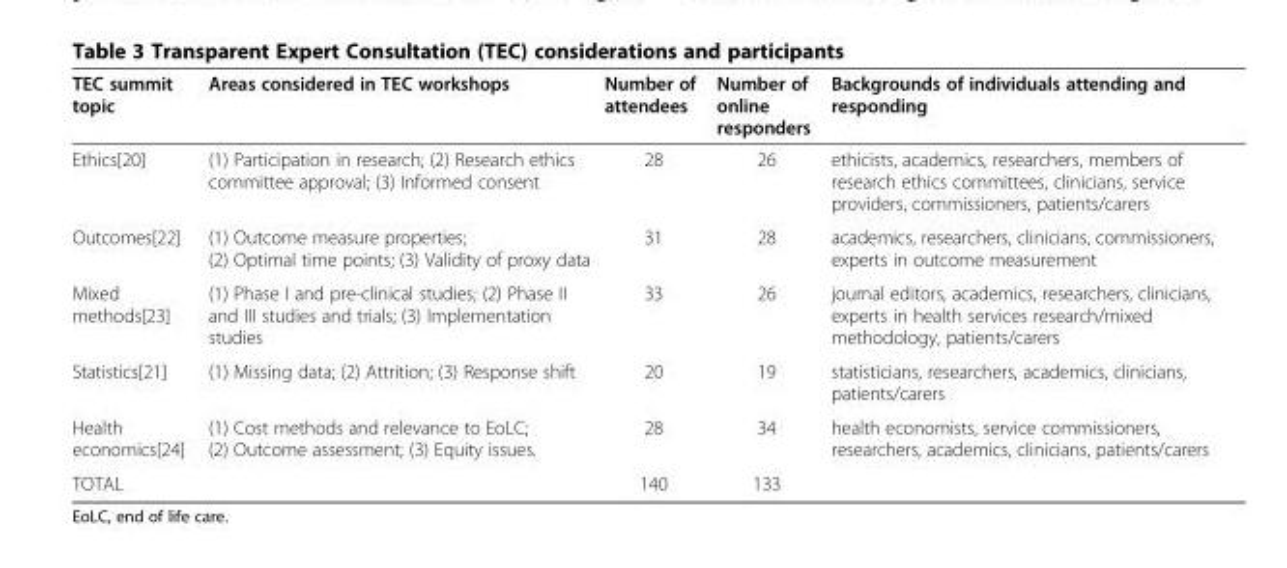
<table><thead><tr><td>TEC summit topic</td><td>Areas considered in TEC workshops</td><td>Number of attendees</td><td>Number of online responders</td><td>Backgrounds of individuals attending and responding</td></tr></thead><tbody><tr><td>Ethics[20]</td><td>(1) Participation in research; (2) Research ethics committee approval; (3) Informed consent</td><td>28</td><td>26</td><td>ethicists, academics, researchers, members of research ethics committees, clinicians, service providers, commissioners, patients/carers</td></tr><tr><td>Outcomes[22]</td><td>(1) Outcome measure properties; (2) Optimal time points; (3) Validity of proxy data</td><td>31</td><td>28</td><td>academics, researchers, clinicians, commissioners, experts in outcome measurement</td></tr><tr><td>Mixed methods[23]</td><td>(1) Phase I and pre-clinical studies; (2) Phase II and III studies and trials; (3) Implementation studies</td><td>33</td><td>26</td><td>journal editors, academics, researchers, clinicians, experts in health services research/mixed methodology, patients/carers</td></tr><tr><td>Statistics[21]</td><td>(1) Missing data; (2) Attrition; (3) Response shift</td><td>20</td><td>19</td><td>statisticians, researchers, academics, clinicians, patients/carers</td></tr><tr><td>Health economics[24]</td><td>(1) Cost methods and relevance to EoLC; (2) Outcome assessment; (3) Equity issues.</td><td>28</td><td>34</td><td>health economists, service commissioners, researchers, academics, clinicians, patients/carers</td></tr><tr><td>TOTAL</td><td></td><td>140</td><td>133</td><td></td></tr></tbody></table>